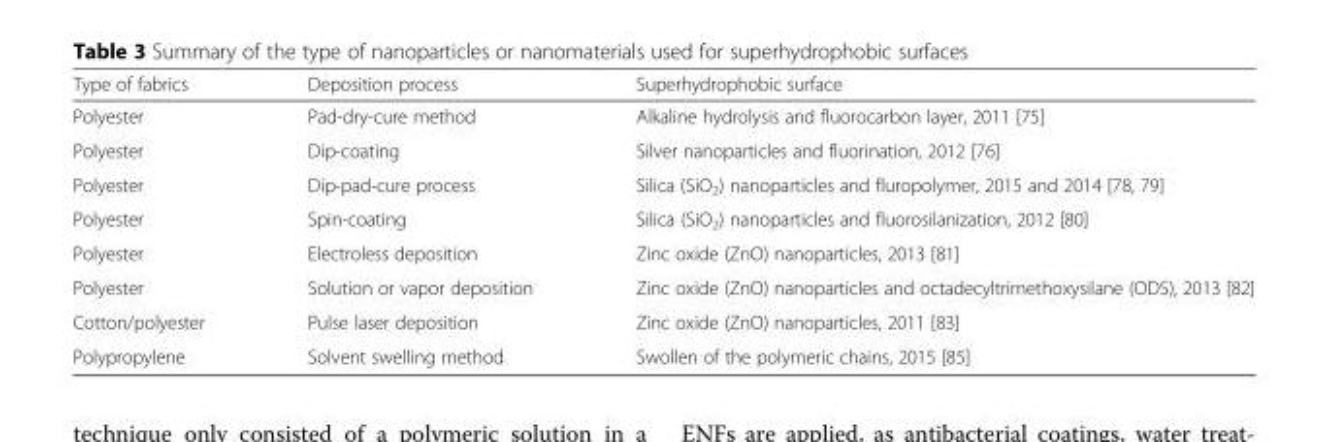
<table><thead><tr><td>Type of fabrics</td><td>Deposition process</td><td>Superhydrophobic surface</td></tr></thead><tbody><tr><td>Polyester</td><td>Pad-dry-cure method</td><td>Alkaline hydrolysis and fluorocarbon layer, 2011 [75]</td></tr><tr><td>Polyester</td><td>Dip-coating</td><td>Silver nanoparticles and fluorination, 2012 [76]</td></tr><tr><td>Polyester</td><td>Dip-pad-cure process</td><td>Silica (SiO<sub>2</sub>) nanoparticles and fluropolymer, 2015 and 2014 [78, 79]</td></tr><tr><td>Polyester</td><td>Spin-coating</td><td>Silica (SiO<sub>2</sub>) nanoparticles and fluorosilanization, 2012 [80]</td></tr><tr><td>Polyester</td><td>Electroless deposition</td><td>Zinc oxide (ZnO) nanoparticles, 2013 [81]</td></tr><tr><td>Polyester</td><td>Solution or vapor deposition</td><td>Zinc oxide (ZnO) nanoparticles and octadecyltrimethoxysilane (ODS), 2013 [82]</td></tr><tr><td>Cotton/polyester</td><td>Pulse laser deposition</td><td>Zinc oxide (ZnO) nanoparticles, 2011 [83]</td></tr><tr><td>Polypropylene</td><td>Solvent swelling method</td><td>Swollen of the polymeric chains, 2015 [85]</td></tr></tbody></table>